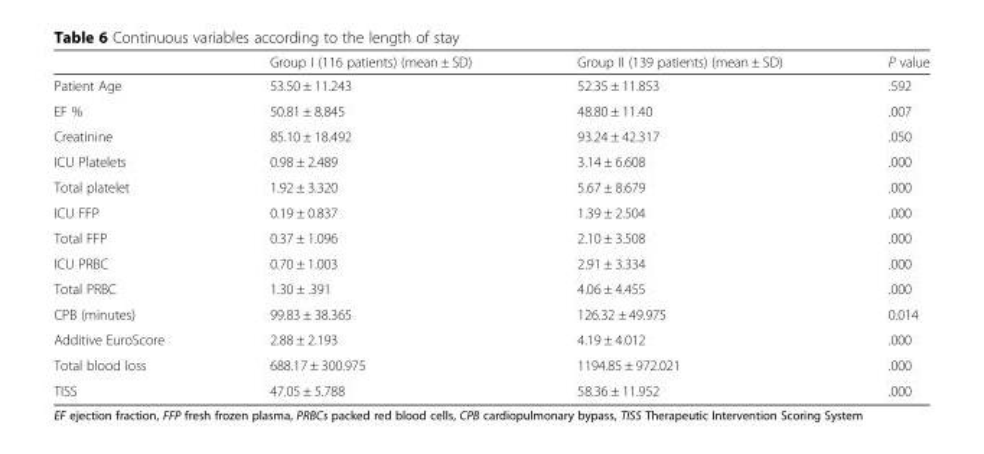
<table><thead><tr><td></td><td>Group I (116 patients) (mean ± SD)</td><td>Group II (139 patients) (mean ± SD)</td><td>P value</td></tr></thead><tbody><tr><td>Patient Age</td><td>53.50 ± 11.243</td><td>52.35 ± 11.853</td><td>.592</td></tr><tr><td>EF %</td><td>50.81 ± 8.845</td><td>48.80 ± 11.40</td><td>.007</td></tr><tr><td>Creatinine</td><td>85.10 ± 18.492</td><td>93.24 ± 42.317</td><td>.050</td></tr><tr><td>ICU Platelets</td><td>0.98 ± 2.489</td><td>3.14 ± 6.608</td><td>.000</td></tr><tr><td>Total platelet</td><td>1.92 ± 3.320</td><td>5.67 ± 8.679</td><td>.000</td></tr><tr><td>ICU FFP</td><td>0.19 ± 0.837</td><td>1.39 ± 2.504</td><td>.000</td></tr><tr><td>Total FFP</td><td>0.37 ± 1.096</td><td>2.10 ± 3.508</td><td>.000</td></tr><tr><td>ICU PRBC</td><td>0.70 ± 1.003</td><td>2.91 ± 3.334</td><td>.000</td></tr><tr><td>Total PRBC</td><td>1.30 ± .391</td><td>4.06 ± 4.455</td><td>.000</td></tr><tr><td>CPB (minutes)</td><td>99.83 ± 38.365</td><td>126.32 ± 49.975</td><td>0.014</td></tr><tr><td>Additive EuroScore</td><td>2.88 ± 2.193</td><td>4.19 ± 4.012</td><td>.000</td></tr><tr><td>Total blood loss</td><td>688.17 ± 300.975</td><td>1194.85 ± 972.021</td><td>.000</td></tr><tr><td>TISS</td><td>47.05 ± 5.788</td><td>58.36 ± 11.952</td><td>.000</td></tr></tbody></table>